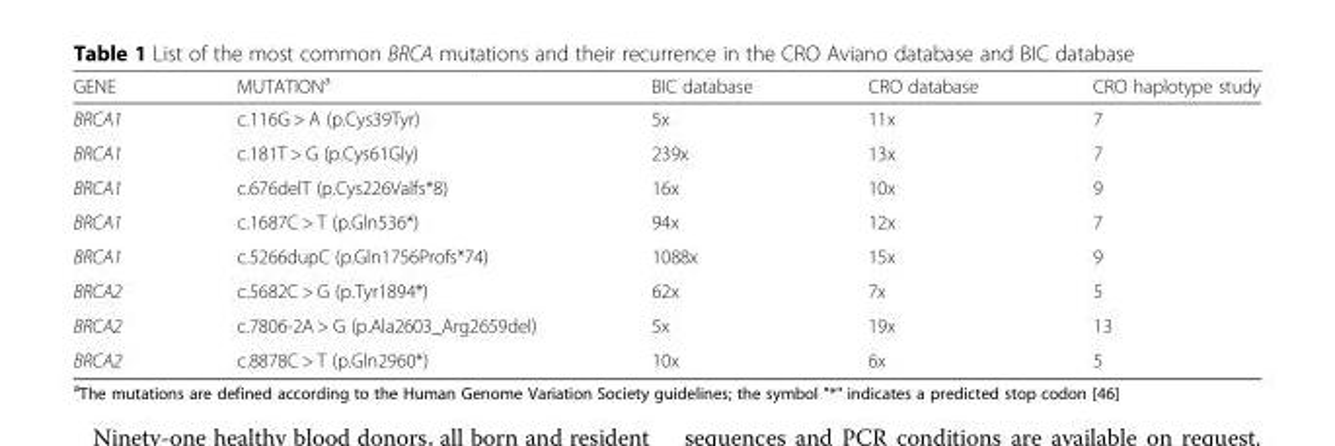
<table><thead><tr><td>GENE</td><td>MUTATION<sup>a</sup></td><td>BIC database</td><td>CRO database</td><td>CRO haplotype study</td></tr></thead><tbody><tr><td>BRCA1</td><td>c.116G &gt; A (p.Cys39Tyr)</td><td>5x</td><td>11x</td><td>7</td></tr><tr><td>BRCA1</td><td>c.181T &gt; G (p.Cys61Gly)</td><td>239x</td><td>13x</td><td>7</td></tr><tr><td>BRCA1</td><td>c.676delT (p.Cys226Valfs*8)</td><td>16x</td><td>10x</td><td>9</td></tr><tr><td>BRCA1</td><td>c.1687C &gt; T (p.Gln536*)</td><td>94x</td><td>12x</td><td>7</td></tr><tr><td>BRCA1</td><td>c.5266dupC (p.Gln1756Profs*74)</td><td>1088x</td><td>15x</td><td>9</td></tr><tr><td>BRCA2</td><td>c.5682C &gt; G (p.Tyr1894*)</td><td>62x</td><td>7x</td><td>5</td></tr><tr><td>BRCA2</td><td>c.7806-2A &gt; G (p.Ala2603_Arg2659del)</td><td>5x</td><td>19x</td><td>13</td></tr><tr><td>BRCA2</td><td>c.8878C &gt; T (p.Gln2960*)</td><td>10x</td><td>6x</td><td>5</td></tr></tbody></table>